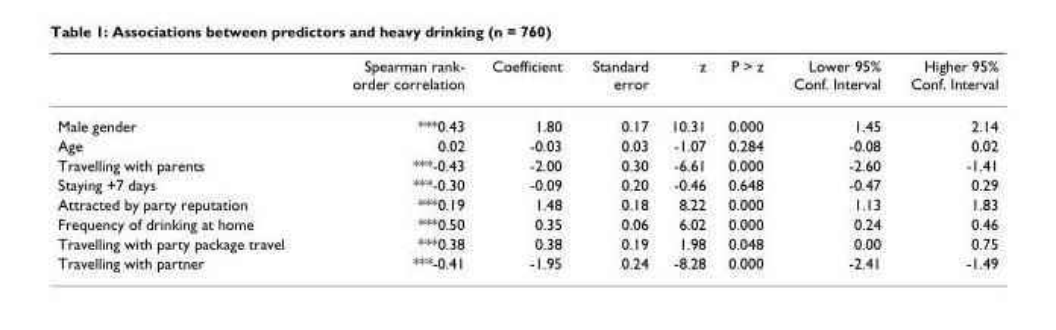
<table><thead><tr><td></td><td>Spearman rank- order correlation</td><td>Coefficient</td><td>Standard error</td><td>z</td><td>P &gt; z</td><td>Lower 95% Conf. Interval</td><td>Higher 95% Conf. Interval</td></tr></thead><tbody><tr><td>Male gender</td><td>***0.43</td><td>1.80</td><td>0.17</td><td>10.31</td><td>0.000</td><td>1.45</td><td>2.14</td></tr><tr><td>Age</td><td>0.02</td><td>-0.03</td><td>0.03</td><td>-1.07</td><td>0.284</td><td>-0.08</td><td>0.02</td></tr><tr><td>Travelling with parents</td><td>***-0.43</td><td>-2.00</td><td>0.30</td><td>-6.61</td><td>0.000</td><td>-2.60</td><td>-1.41</td></tr><tr><td>Staying +7 days</td><td>***-0.30</td><td>-0.09</td><td>0.20</td><td>-0.46</td><td>0.648</td><td>-0.47</td><td>0.29</td></tr><tr><td>Attracted by party reputation</td><td>***0.19</td><td>1.48</td><td>0.18</td><td>8.22</td><td>0.000</td><td>1.13</td><td>1.83</td></tr><tr><td>Frequency of drinking at home</td><td>***0.50</td><td>0.35</td><td>0.06</td><td>6.02</td><td>0.000</td><td>0.24</td><td>0.46</td></tr><tr><td>Travelling with party package travel</td><td>***0.38</td><td>0.38</td><td>0.19</td><td>1.98</td><td>0.048</td><td>0.00</td><td>0.75</td></tr><tr><td>Travelling with partner</td><td>***-0.41</td><td>-1.95</td><td>0.24</td><td>-8.28</td><td>0.000</td><td>-2.41</td><td>-1.49</td></tr></tbody></table>